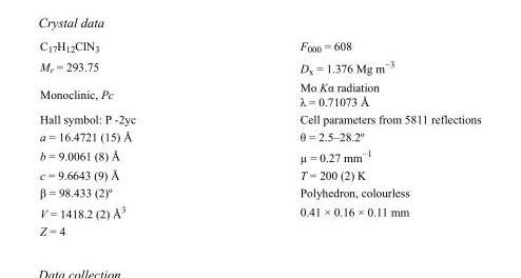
<table><tbody><tr><td>C<sub>17</sub>H<sub>12</sub>ClN<sub>3</sub></td><td>F000 = 608</td></tr><tr><td>M<sub>r</sub> = 293.75</td><td>D<sub>x</sub> = 1.376 Mg m<sup>−3</sup></td></tr><tr><td>Monoclinic, Pc</td><td>Mo Kα radiation λ = 0.71073 Å</td></tr><tr><td>Hall symbol: P -2yc</td><td>Cell parameters from 5811 reflections</td></tr><tr><td>a = 16.4721 (15) Å</td><td>θ = 2.5–28.2º</td></tr><tr><td>b = 9.0061 (8) Å</td><td>µ = 0.27 mm<sup>−1</sup></td></tr><tr><td>c = 9.6643 (9) Å</td><td>T = 200 (2) K</td></tr><tr><td>β = 98.433 (2)º</td><td>Polyhedron, colourless</td></tr><tr><td>V = 1418.2 (2) Å<sup>3</sup></td><td>0.41 × 0.16 × 0.11 mm</td></tr><tr><td>Z = 4</td><td></td></tr></tbody></table>